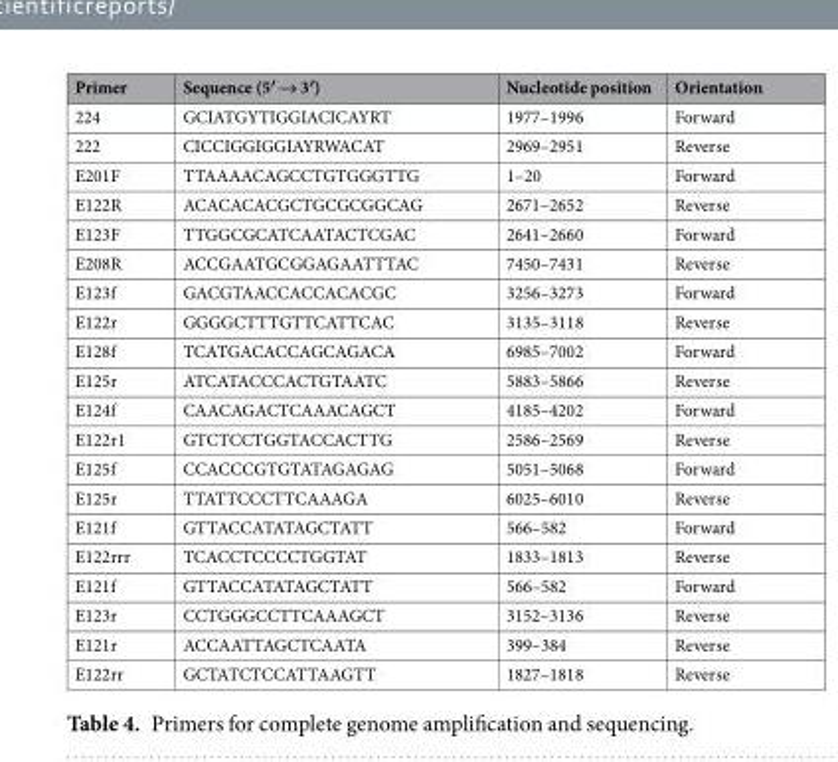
<table><thead><tr><td>Primer</td><td>Sequence (5′ → 3′)</td><td>Nucleotide position</td><td>Orientation</td></tr></thead><tbody><tr><td>224</td><td>GCIATGYTIGGIACICAYRT</td><td>1977–1996</td><td>Forward</td></tr><tr><td>222</td><td>CICCIGGIGGIAYRWACAT</td><td>2969–2951</td><td>Reverse</td></tr><tr><td>E201F</td><td>TTAAAACAGCCTGTGGGTTG</td><td>1–20</td><td>Forward</td></tr><tr><td>E122R</td><td>ACACACACGCTGCGCGGCAG</td><td>2671–2652</td><td>Reverse</td></tr><tr><td>E123F</td><td>TTGGCGCATCAATACTCGAC</td><td>2641–2660</td><td>Forward</td></tr><tr><td>E208R</td><td>ACCGAATGCGGAGAATTTAC</td><td>7450–7431</td><td>Reverse</td></tr><tr><td>E123f</td><td>GACGTAACCACCACACGC</td><td>3256–3273</td><td>Forward</td></tr><tr><td>E122r</td><td>GGGGCTTTGTTCATTCAC</td><td>3135–3118</td><td>Reverse</td></tr><tr><td>E128f</td><td>TCATGACACCAGCAGACA</td><td>6985–7002</td><td>Forward</td></tr><tr><td>E125r</td><td>ATCATACCCACTGTAATC</td><td>5883–5866</td><td>Reverse</td></tr><tr><td>E124f</td><td>CAACAGACTCAAACAGCT</td><td>4185–4202</td><td>Forward</td></tr><tr><td>E122r1</td><td>GTCTCCTGGTACCACTTG</td><td>2586–2569</td><td>Reverse</td></tr><tr><td>E125f</td><td>CCACCCGTGTATAGAGAG</td><td>5051–5068</td><td>Forward</td></tr><tr><td>E125r</td><td>TTATTCCCTTCAAAGA</td><td>6025–6010</td><td>Reverse</td></tr><tr><td>E121f</td><td>GTTACCATATAGCTATT</td><td>566–582</td><td>Forward</td></tr><tr><td>E122rrr</td><td>TCACCTCCCCTGGTAT</td><td>1833–1813</td><td>Reverse</td></tr><tr><td>E121f</td><td>GTTACCATATAGCTATT</td><td>566–582</td><td>Forward</td></tr><tr><td>E123r</td><td>CCTGGGCCTTCAAAGCT</td><td>3152–3136</td><td>Reverse</td></tr><tr><td>E121r</td><td>ACCAATTAGCTCAATA</td><td>399–384</td><td>Reverse</td></tr><tr><td>E122rr</td><td>GCTATCTCCATTAAGTT</td><td>1827–1818</td><td>Reverse</td></tr></tbody></table>